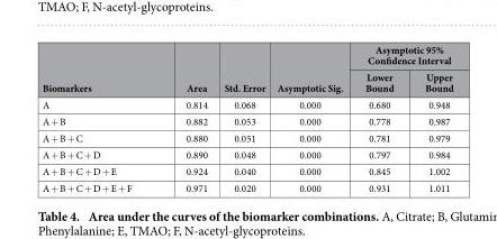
<table><thead><tr><td rowspan="2">Biomarkers</td><td rowspan="2">Area</td><td rowspan="2">Std. Error</td><td rowspan="2">Asymptotic Sig.</td><td colspan="2">Asymptotic 95% Confidence Interval</td></tr><tr><td>Lower Bound</td><td>Upper Bound</td></tr></thead><tbody><tr><td>A</td><td>0.814</td><td>0.068</td><td>0.000</td><td>0.680</td><td>0.948</td></tr><tr><td>A + B</td><td>0.882</td><td>0.053</td><td>0.000</td><td>0.778</td><td>0.987</td></tr><tr><td>A + B + C</td><td>0.880</td><td>0.051</td><td>0.000</td><td>0.781</td><td>0.979</td></tr><tr><td>A + B + C + D</td><td>0.890</td><td>0.048</td><td>0.000</td><td>0.797</td><td>0.984</td></tr><tr><td>A + B + C + D + E</td><td>0.924</td><td>0.040</td><td>0.000</td><td>0.845</td><td>1.002</td></tr><tr><td>A + B + C + D + E + F</td><td>0.971</td><td>0.020</td><td>0.000</td><td>0.931</td><td>1.011</td></tr></tbody></table>